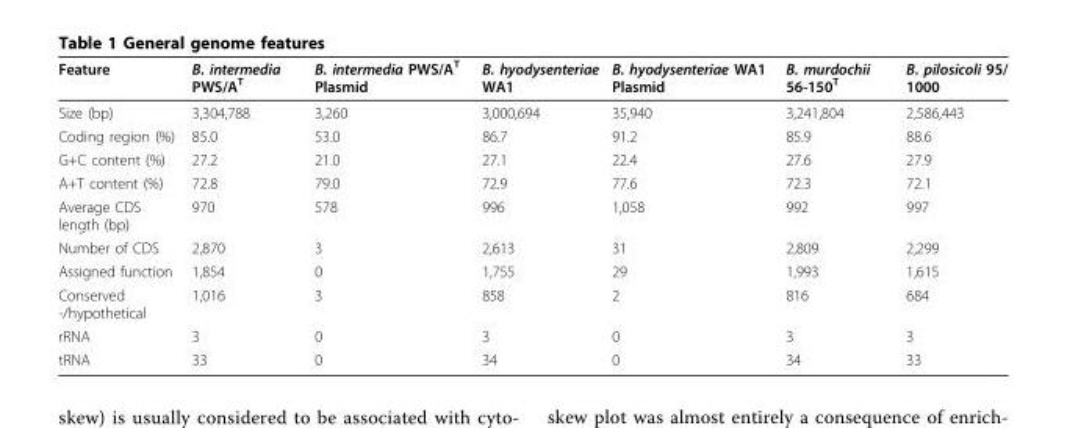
<table><thead><tr><td>Feature</td><td>B. intermedia PWS/A<sup>T</sup></td><td>B. intermedia PWS/A<sup>T</sup> Plasmid</td><td>B. hyodysenteriae WA1</td><td>B. hyodysenteriae WA1 Plasmid</td><td>B. murdochii 56-150<sup>T</sup></td><td>B. pilosicoli 95/ 1000</td></tr></thead><tbody><tr><td>Size (bp)</td><td>3,304,788</td><td>3,260</td><td>3,000,694</td><td>35,940</td><td>3,241,804</td><td>2,586,443</td></tr><tr><td>Coding region (%)</td><td>85.0</td><td>53.0</td><td>86.7</td><td>91.2</td><td>85.9</td><td>88.6</td></tr><tr><td>G+C content (%)</td><td>27.2</td><td>21.0</td><td>27.1</td><td>22.4</td><td>27.6</td><td>27.9</td></tr><tr><td>A+T content (%)</td><td>72.8</td><td>79.0</td><td>72.9</td><td>77.6</td><td>72.3</td><td>72.1</td></tr><tr><td>Average CDS length (bp)</td><td>970</td><td>578</td><td>996</td><td>1,058</td><td>992</td><td>997</td></tr><tr><td>Number of CDS</td><td>2,870</td><td>3</td><td>2,613</td><td>31</td><td>2,809</td><td>2,299</td></tr><tr><td>Assigned function</td><td>1,854</td><td>0</td><td>1,755</td><td>29</td><td>1,993</td><td>1,615</td></tr><tr><td>Conserved -/hypothetical</td><td>1,016</td><td>3</td><td>858</td><td>2</td><td>816</td><td>684</td></tr><tr><td>rRNA</td><td>3</td><td>0</td><td>3</td><td>0</td><td>3</td><td>3</td></tr><tr><td>tRNA</td><td>33</td><td>0</td><td>34</td><td>0</td><td>34</td><td>33</td></tr></tbody></table>